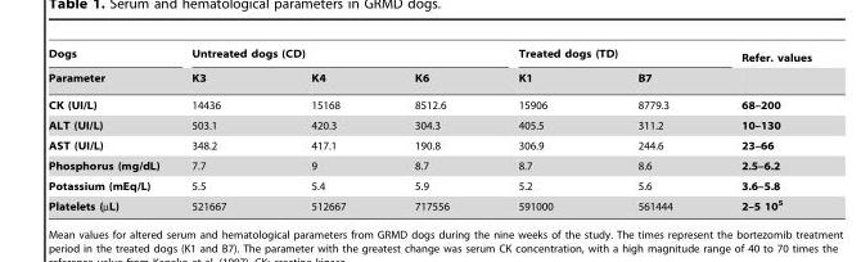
<table><thead><tr><td rowspan="2">Dogs Parameter</td><td colspan="3">Untreated dogs (CD)</td><td colspan="2">Treated dogs (TD)</td><td rowspan="2">Refer. values</td></tr><tr><td>K3</td><td>K4</td><td>K6</td><td>K1</td><td>B7</td></tr></thead><tbody><tr><td>CK (UI/L)</td><td>14436</td><td>15168</td><td>8512.6</td><td>15906</td><td>8779.3</td><td>68–200</td></tr><tr><td>ALT (UI/L)</td><td>503.1</td><td>420.3</td><td>304.3</td><td>405.5</td><td>311.2</td><td>10–130</td></tr><tr><td>AST (UI/L)</td><td>348.2</td><td>417.1</td><td>190.8</td><td>306.9</td><td>244.6</td><td>23–66</td></tr><tr><td>Phosphorus (mg/dL)</td><td>7.7</td><td>9</td><td>8.7</td><td>8.7</td><td>8.6</td><td>2.5–6.2</td></tr><tr><td>Potassium (mEq/L)</td><td>5.5</td><td>5.4</td><td>5.9</td><td>5.2</td><td>5.6</td><td>3.6–5.8</td></tr><tr><td>Platelets (µL)</td><td>521667</td><td>512667</td><td>717556</td><td>591000</td><td>561444</td><td>2–5 10<sup>5</sup></td></tr></tbody></table>